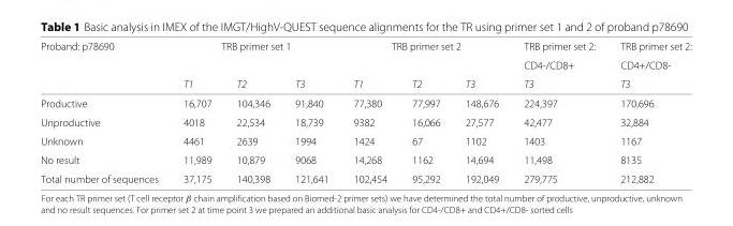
<table><thead><tr><td rowspan="3">Proband: p78690</td><td colspan="3">TRB primer set 1</td><td colspan="3">TRB primer set 2</td><td rowspan="3">TRB primer set 2: CD4-/CD8+ T3</td><td rowspan="3">TRB primer set 2: CD4+/CD8- T3</td></tr><tr><td rowspan="2">T1</td><td rowspan="2">T2</td><td rowspan="2">T3</td><td rowspan="2">T1</td><td rowspan="2">T2</td><td rowspan="2">T3</td></tr><tr></tr></thead><tbody><tr><td>Productive</td><td>16,707</td><td>104,346</td><td>91,840</td><td>77,380</td><td>77,997</td><td>148,676</td><td>224,397</td><td>170,696</td></tr><tr><td>Unproductive</td><td>4018</td><td>22,534</td><td>18,739</td><td>9382</td><td>16,066</td><td>27,577</td><td>42,477</td><td>32,884</td></tr><tr><td>Unknown</td><td>4461</td><td>2639</td><td>1994</td><td>1424</td><td>67</td><td>1102</td><td>1403</td><td>1167</td></tr><tr><td>No result</td><td>11,989</td><td>10,879</td><td>9068</td><td>14,268</td><td>1162</td><td>14,694</td><td>11,498</td><td>8135</td></tr><tr><td>Total number of sequences</td><td>37,175</td><td>140,398</td><td>121,641</td><td>102,454</td><td>95,292</td><td>192,049</td><td>279,775</td><td>212,882</td></tr></tbody></table>